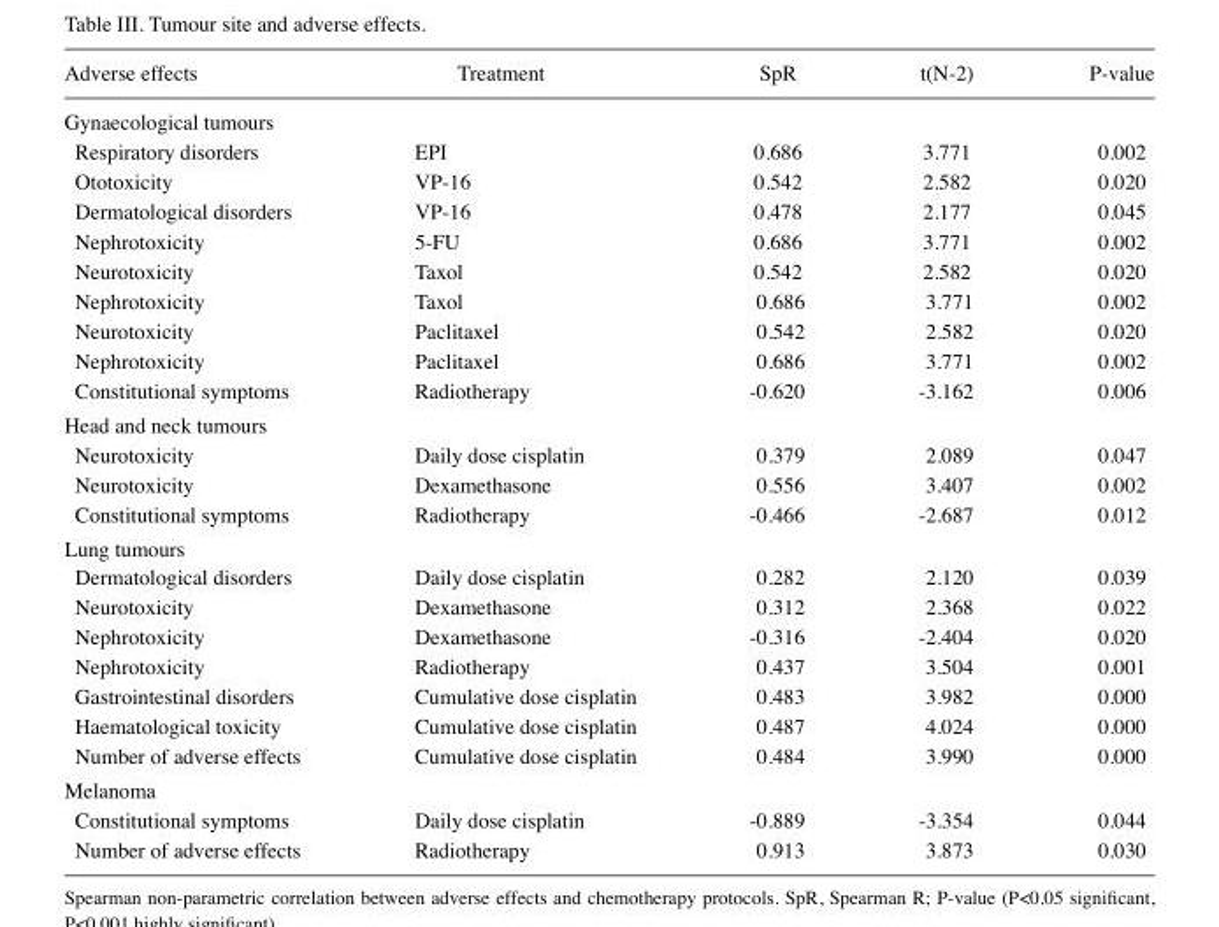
<table><thead><tr><td>Adverse effects</td><td>Treatment</td><td>SpR</td><td>t(N-2)</td><td>P-value</td></tr></thead><tbody><tr><td colspan="5">Gynaecological tumours</td></tr><tr><td>Respiratory disorders</td><td>EPI</td><td>0.686</td><td>3.771</td><td>0.002</td></tr><tr><td>Ototoxicity</td><td>VP-16</td><td>0.542</td><td>2.582</td><td>0.020</td></tr><tr><td>Dermatological disorders</td><td>VP-16</td><td>0.478</td><td>2.177</td><td>0.045</td></tr><tr><td>Nephrotoxicity</td><td>5-FU</td><td>0.686</td><td>3.771</td><td>0.002</td></tr><tr><td>Neurotoxicity</td><td>Taxol</td><td>0.542</td><td>2.582</td><td>0.020</td></tr><tr><td>Nephrotoxicity</td><td>Taxol</td><td>0.686</td><td>3.771</td><td>0.002</td></tr><tr><td>Neurotoxicity</td><td>Paclitaxel</td><td>0.542</td><td>2.582</td><td>0.020</td></tr><tr><td>Nephrotoxicity</td><td>Paclitaxel</td><td>0.686</td><td>3.771</td><td>0.002</td></tr><tr><td>Constitutional symptoms</td><td>Radiotherapy</td><td>-0.620</td><td>-3.162</td><td>0.006</td></tr><tr><td colspan="5">Head and neck tumours</td></tr><tr><td>Neurotoxicity</td><td>Daily dose cisplatin</td><td>0.379</td><td>2.089</td><td>0.047</td></tr><tr><td>Neurotoxicity</td><td>Dexamethasone</td><td>0.556</td><td>3.407</td><td>0.002</td></tr><tr><td>Constitutional symptoms</td><td>Radiotherapy</td><td>-0.466</td><td>-2.687</td><td>0.012</td></tr><tr><td colspan="5">Lung tumours</td></tr><tr><td>Dermatological disorders</td><td>Daily dose cisplatin</td><td>0.282</td><td>2.120</td><td>0.039</td></tr><tr><td>Neurotoxicity</td><td>Dexamethasone</td><td>0.312</td><td>2.368</td><td>0.022</td></tr><tr><td>Nephrotoxicity</td><td>Dexamethasone</td><td>-0.316</td><td>-2.404</td><td>0.020</td></tr><tr><td>Nephrotoxicity</td><td>Radiotherapy</td><td>0.437</td><td>3.504</td><td>0.001</td></tr><tr><td>Gastrointestinal disorders</td><td>Cumulative dose cisplatin</td><td>0.483</td><td>3.982</td><td>0.000</td></tr><tr><td>Haematological toxicity</td><td>Cumulative dose cisplatin</td><td>0.487</td><td>4.024</td><td>0.000</td></tr><tr><td>Number of adverse effects</td><td>Cumulative dose cisplatin</td><td>0.484</td><td>3.990</td><td>0.000</td></tr><tr><td colspan="5">Melanoma</td></tr><tr><td>Constitutional symptoms</td><td>Daily dose cisplatin</td><td>-0.889</td><td>-3.354</td><td>0.044</td></tr><tr><td>Number of adverse effects</td><td>Radiotherapy</td><td>0.913</td><td>3.873</td><td>0.030</td></tr></tbody></table>